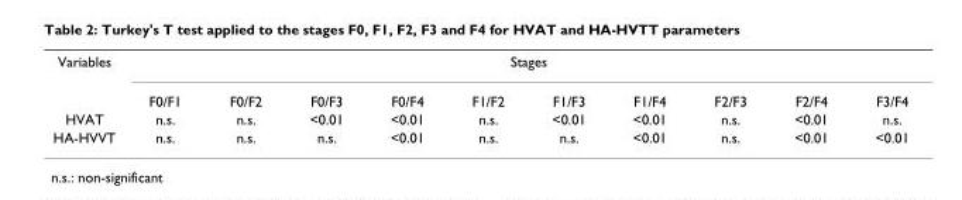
<table><tbody><tr><td rowspan="2">Variables</td><td colspan="10">Stages</td></tr><tr><td>F0/F1</td><td>F0/F2</td><td>F0/F3</td><td>F0/F4</td><td>F1/F2</td><td>F1/F3</td><td>F1/F4</td><td>F2/F3</td><td>F2/F4</td><td>F3/F4</td></tr><tr><td>HVAT</td><td>n.s.</td><td>n.s.</td><td>&lt;0.01</td><td>&lt;0.01</td><td>n.s.</td><td>&lt;0.01</td><td>&lt;0.01</td><td>n.s.</td><td>&lt;0.01</td><td>n.s.</td></tr><tr><td>HA-HVVT</td><td>n.s.</td><td>n.s.</td><td>n.s.</td><td>&lt;0.01</td><td>n.s.</td><td>n.s.</td><td>&lt;0.01</td><td>n.s.</td><td>&lt;0.01</td><td>&lt;0.01</td></tr></tbody></table>